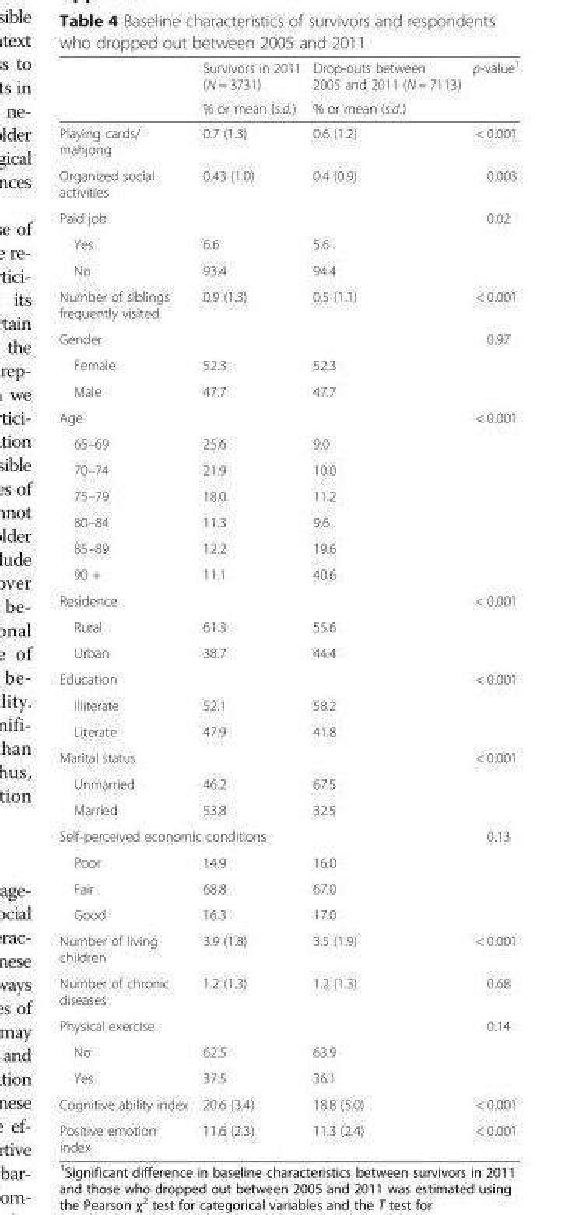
<table><thead><tr><td rowspan="2"></td><td rowspan="2">Survivors in 2011 (N = 3731) % or mean (s.d.)</td><td rowspan="2">Drop-outs between 2005 and 2011 (N = 7113) % or mean (s.d.)</td><td rowspan="2">p-value<sup>1</sup></td></tr><tr></tr></thead><tbody><tr><td>Playing cards/ mahjong</td><td>0.7 (1.3)</td><td>0.6 (1.2)</td><td>&lt; 0.001</td></tr><tr><td>Organized social activities</td><td>0.43 (1.0)</td><td>0.4 (0.9)</td><td>0.003</td></tr><tr><td colspan="3">Paid job</td><td>0.02</td></tr><tr><td>Yes</td><td>6.6</td><td>5.6</td><td></td></tr><tr><td>No</td><td>93.4</td><td>94.4</td><td></td></tr><tr><td>Number of siblings frequently visited</td><td>0.9 (1.3)</td><td>0.5 (1.1)</td><td>&lt; 0.001</td></tr><tr><td colspan="3">Gender</td><td>0.97</td></tr><tr><td>Female</td><td>52.3</td><td>52.3</td><td></td></tr><tr><td>Male</td><td>47.7</td><td>47.7</td><td></td></tr><tr><td colspan="3">Age</td><td>&lt; 0.001</td></tr><tr><td>65–69</td><td>25.6</td><td>9.0</td><td></td></tr><tr><td>70–74</td><td>21.9</td><td>10.0</td><td></td></tr><tr><td>75–79</td><td>18.0</td><td>11.2</td><td></td></tr><tr><td>80–84</td><td>11.3</td><td>9.6</td><td></td></tr><tr><td>85–89</td><td>12.2</td><td>19.6</td><td></td></tr><tr><td>90 +</td><td>11.1</td><td>40.6</td><td></td></tr><tr><td colspan="3">Residence</td><td>&lt; 0.001</td></tr><tr><td>Rural</td><td>61.3</td><td>55.6</td><td></td></tr><tr><td>Urban</td><td>38.7</td><td>44.4</td><td></td></tr><tr><td colspan="3">Education</td><td>&lt; 0.001</td></tr><tr><td>Illiterate</td><td>52.1</td><td>58.2</td><td></td></tr><tr><td>Literate</td><td>47.9</td><td>41.8</td><td></td></tr><tr><td colspan="3">Marital status</td><td>&lt; 0.001</td></tr><tr><td>Unmarried</td><td>46.2</td><td>67.5</td><td></td></tr><tr><td>Married</td><td>53.8</td><td>32.5</td><td></td></tr><tr><td colspan="3">Self-perceived economic conditions</td><td>0.13</td></tr><tr><td>Poor</td><td>14.9</td><td>16.0</td><td></td></tr><tr><td>Fair</td><td>68.8</td><td>67.0</td><td></td></tr><tr><td>Good</td><td>16.3</td><td>17.0</td><td></td></tr><tr><td>Number of living children</td><td>3.9 (1.8)</td><td>3.5 (1.9)</td><td>&lt; 0.001</td></tr><tr><td>Number of chronic diseases</td><td>1.2 (1.3)</td><td>1.2 (1.3)</td><td>0.68</td></tr><tr><td colspan="3">Physical exercise</td><td>0.14</td></tr><tr><td>No</td><td>62.5</td><td>63.9</td><td></td></tr><tr><td>Yes</td><td>37.5</td><td>36.1</td><td></td></tr><tr><td>Cognitive ability index</td><td>20.6 (3.4)</td><td>18.8 (5.0)</td><td>&lt; 0.001</td></tr><tr><td>Positive emotion index</td><td>11.6 (2.3)</td><td>11.3 (2.4)</td><td>&lt; 0.001</td></tr></tbody></table>